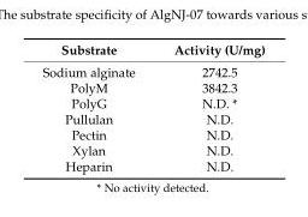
<table><thead><tr><td>Substrate</td><td>Activity (U/mg)</td></tr></thead><tbody><tr><td>Sodium alginate</td><td>2742.5</td></tr><tr><td>PolyM</td><td>3842.3</td></tr><tr><td>PolyG</td><td>N.D. *</td></tr><tr><td>Pullulan</td><td>N.D.</td></tr><tr><td>Pectin</td><td>N.D.</td></tr><tr><td>Xylan</td><td>N.D.</td></tr><tr><td>Heparin</td><td>N.D.</td></tr></tbody></table>